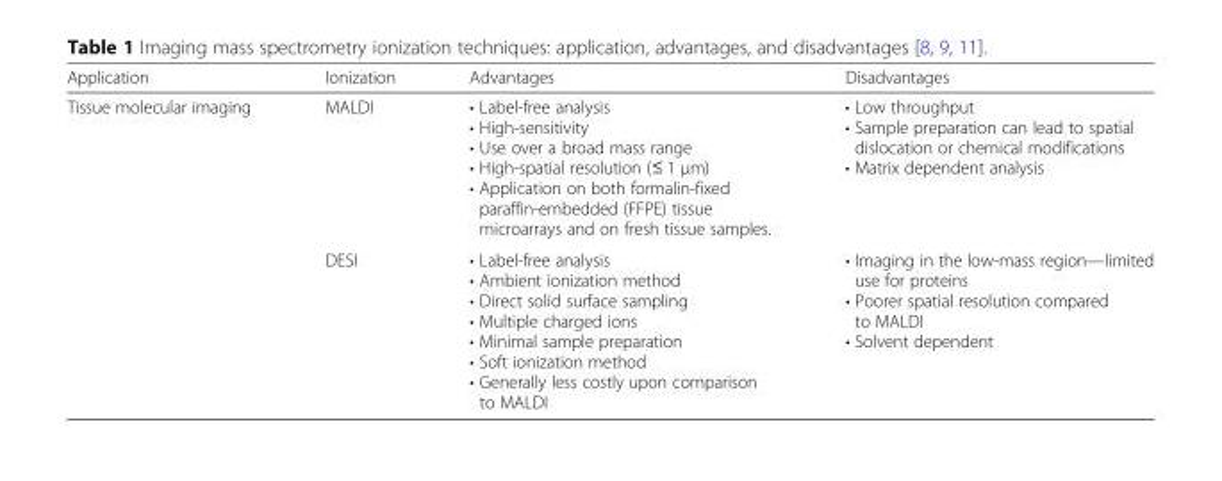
<table><thead><tr><td>Application</td><td>Ionization</td><td>Advantages</td><td>Disadvantages</td></tr></thead><tbody><tr><td rowspan="2">Tissue molecular imaging</td><td>MALDI</td><td>• Label-free analysis • High-sensitivity • Use over a broad mass range • High-spatial resolution (≤ 1 μm) • Application on both formalin-fixed paraffin-embedded (FFPE) tissue microarrays and on fresh tissue samples.</td><td>• Low throughput • Sample preparation can lead to spatial dislocation or chemical modifications • Matrix dependent analysis</td></tr><tr><td>DESI</td><td>• Label-free analysis • Ambient ionization method • Direct solid surface sampling • Multiple charged ions • Minimal sample preparation • Soft ionization method • Generally less costly upon comparison to MALDI</td><td>• Imaging in the low-mass region—limited use for proteins • Poorer spatial resolution compared to MALDI • Solvent dependent</td></tr></tbody></table>